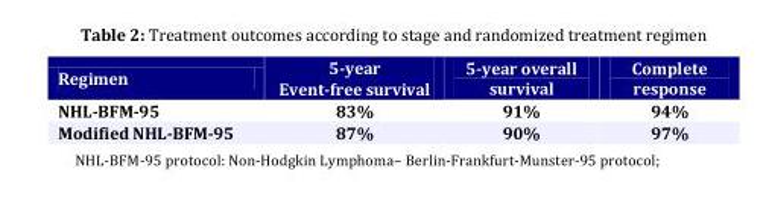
<table><tbody><tr><td>Regimen</td><td>5-year Event-free survival</td><td>5-year overall survival</td><td>Complete response</td></tr><tr><td>NHL-BFM-95</td><td>83%</td><td>91%</td><td>94%</td></tr><tr><td>Modified NHL-BFM-95</td><td>87%</td><td>90%</td><td>97%</td></tr></tbody></table>